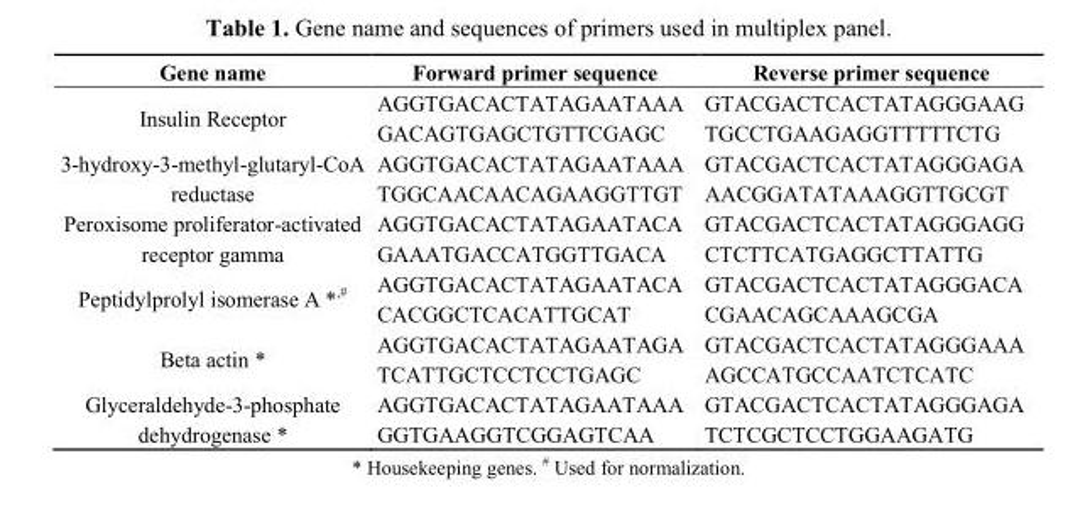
<table><thead><tr><td>Gene name</td><td>Forward primer sequence</td><td>Reverse primer sequence</td></tr></thead><tbody><tr><td>Insulin Receptor</td><td>AGGTGACACTATAGAATAAA GACAGTGAGCTGTTCGAGC</td><td>GTACGACTCACTATAGGGAAG TGCCTGAAGAGGTTTTTCTG</td></tr><tr><td>3-hydroxy-3-methyl-glutaryl-CoA reductase</td><td>AGGTGACACTATAGAATAAA TGGCAACAACAGAAGGTTGT</td><td>GTACGACTCACTATAGGGAGA AACGGATATAAAGGTTGCGT</td></tr><tr><td>Peroxisome proliferator-activated receptor gamma</td><td>AGGTGACACTATAGAATACA GAAATGACCATGGTTGACA</td><td>GTACGACTCACTATAGGGAGG CTCTTCATGAGGCTTATTG</td></tr><tr><td>Peptidylprolyl isomerase A *<sup>,#</sup></td><td>AGGTGACACTATAGAATACA CACGGCTCACATTGCAT</td><td>GTACGACTCACTATAGGGACA CGAACAGCAAAGCGA</td></tr><tr><td>Beta actin *</td><td>AGGTGACACTATAGAATAGA TCATTGCTCCTCCTGAGC</td><td>GTACGACTCACTATAGGGAAA AGCCATGCCAATCTCATC</td></tr><tr><td>Glyceraldehyde-3-phosphate dehydrogenase *</td><td>AGGTGACACTATAGAATAAA GGTGAAGGTCGGAGTCAA</td><td>GTACGACTCACTATAGGGAGA TCTCGCTCCTGGAAGATG</td></tr></tbody></table>